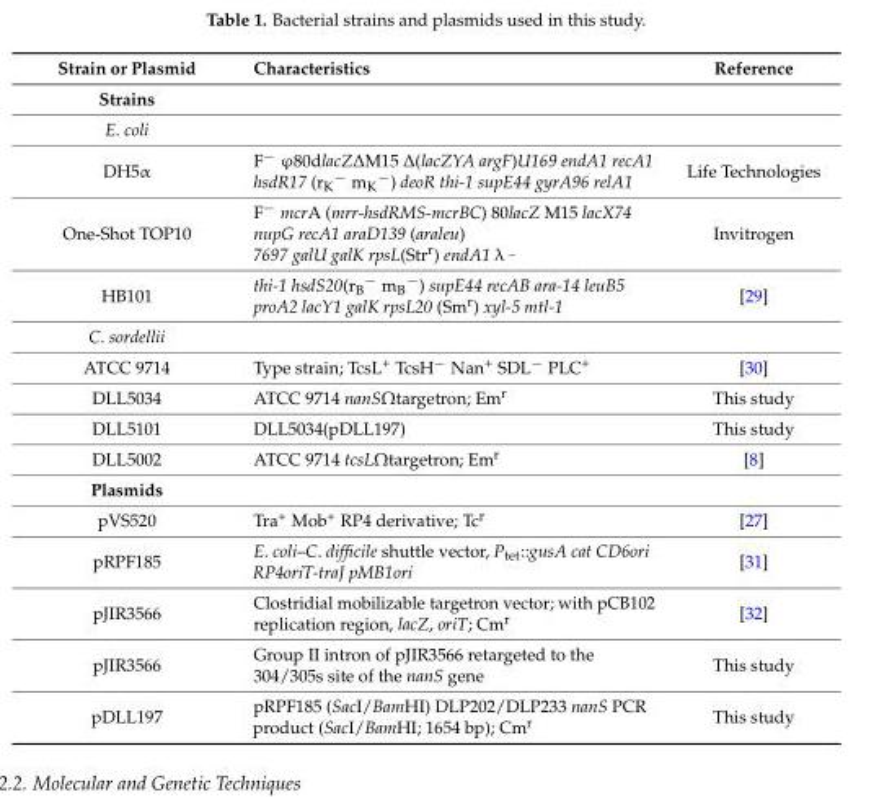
<table><thead><tr><td>Strain or Plasmid</td><td>Characteristics</td><td>Reference</td></tr></thead><tbody><tr><td colspan="3">Strains</td></tr><tr><td colspan="3">E. coli</td></tr><tr><td>DH5α</td><td>F− ϕ80dlacZ∆M15 ∆(lacZYA argF)U169 endA1 recA1 hsdR17 (rK− mK−) deoR thi-1 supE44 gyrA96 relA1</td><td>Life Technologies</td></tr><tr><td>One-Shot TOP10</td><td>F<sup>−</sup> mcrA (mrr-hsdRMS-mcrBC) 80lacZ M15 lacX74 nupG recA1 araD139 (araleu) 7697 galU galK rpsL(Str<sup>r</sup>) endA1 λ <sup>_</sup></td><td>Invitrogen</td></tr><tr><td>HB101</td><td>thi-1 hsdS20(r<sub>B</sub><sup>−</sup> m<sub>B</sub><sup>−</sup>) supE44 recAB ara-14 leuB5 proA2 lacY1 galK rpsL20 (Sm<sup>r</sup>) xyl-5 mtl-1</td><td>[29]</td></tr><tr><td colspan="3">C. sordellii</td></tr><tr><td>ATCC 9714</td><td>Type strain; TcsL<sup>+</sup> TcsH<sup>−</sup> Nan<sup>+</sup> SDL<sup>−</sup> PLC<sup>+</sup></td><td>[30]</td></tr><tr><td>DLL5034</td><td>ATCC 9714 nanSΩtargetron; Em<sup>r</sup></td><td>This study</td></tr><tr><td>DLL5101</td><td>DLL5034(pDLL197)</td><td>This study</td></tr><tr><td>DLL5002</td><td>ATCC 9714 tcsLΩtargetron; Em<sup>r</sup></td><td>[8]</td></tr><tr><td colspan="3">Plasmids</td></tr><tr><td>pVS520</td><td>Tra<sup>+</sup> Mob<sup>+</sup> RP4 derivative; Tc<sup>r</sup></td><td>[27]</td></tr><tr><td>pRPF185</td><td>E. coli–C. difficile shuttle vector, P<sub>tet</sub>::gusA cat CD6ori RP4oriT-traJ pMB1ori</td><td>[31]</td></tr><tr><td>pJIR3566</td><td>Clostridial mobilizable targetron vector; with pCB102 replication region, lacZ, oriT; Cm<sup>r</sup></td><td>[32]</td></tr><tr><td>pJIR3566</td><td>Group II intron of pJIR3566 retargeted to the 304/305s site of the nanS gene</td><td>This study</td></tr><tr><td>pDLL197</td><td>pRPF185 (SacI/BamHI) DLP202/DLP233 nanS PCR product (SacI/BamHI; 1654 bp); Cm<sup>r</sup></td><td>This study</td></tr></tbody></table>